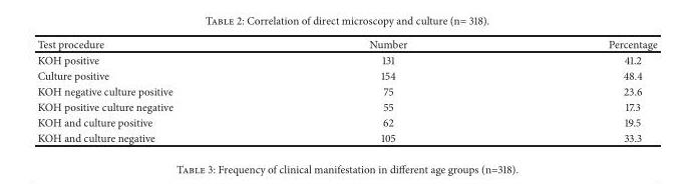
<table><thead><tr><td>Test procedure</td><td>Number</td><td>Percentage</td></tr></thead><tbody><tr><td>KOH positive</td><td>131</td><td>41.2</td></tr><tr><td>Culture positive</td><td>154</td><td>48.4</td></tr><tr><td>KOH negative culture positive</td><td>75</td><td>23.6</td></tr><tr><td>KOH positive culture negative</td><td>55</td><td>17.3</td></tr><tr><td>KOH and culture positive</td><td>62</td><td>19.5</td></tr><tr><td>KOH and culture negative</td><td>105</td><td>33.3</td></tr></tbody></table>